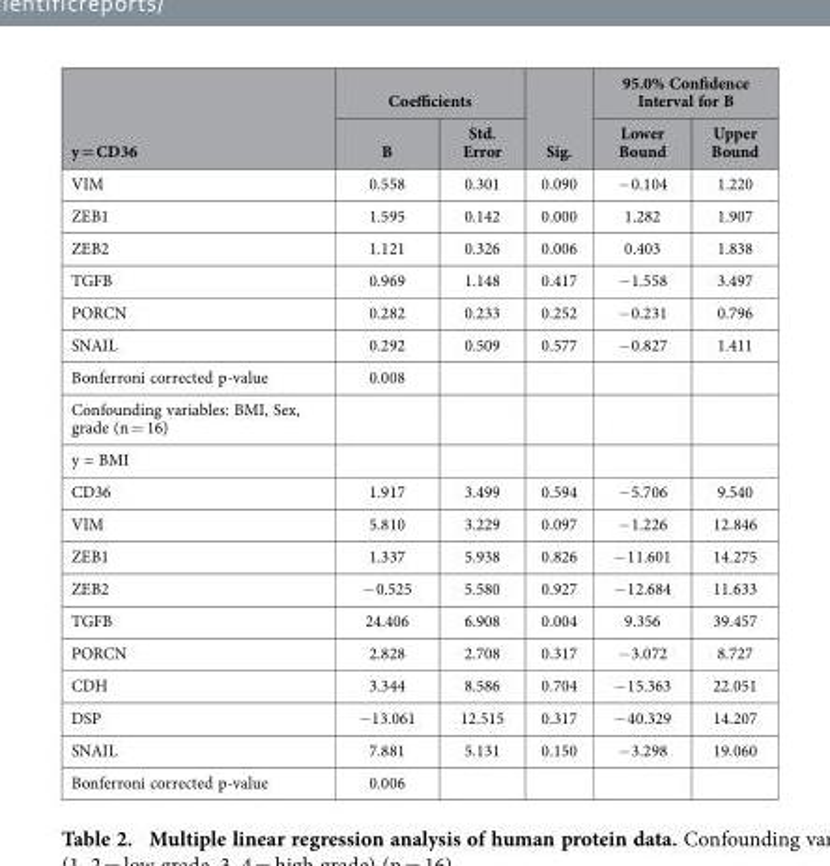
<table><thead><tr><td rowspan="2">y = CD36</td><td colspan="2">Coefficients</td><td rowspan="2">Sig.</td><td colspan="2">95.0% Confidence Interval for B</td></tr><tr><td>B</td><td>Std. Error</td><td>Lower Bound</td><td>Upper Bound</td></tr></thead><tbody><tr><td>VIM</td><td>0.558</td><td>0.301</td><td>0.090</td><td>− 0.104</td><td>1.220</td></tr><tr><td>ZEB1</td><td>1.595</td><td>0.142</td><td>0.000</td><td>1.282</td><td>1.907</td></tr><tr><td>ZEB2</td><td>1.121</td><td>0.326</td><td>0.006</td><td>0.403</td><td>1.838</td></tr><tr><td>TGFB</td><td>0.969</td><td>1.148</td><td>0.417</td><td>− 1.558</td><td>3.497</td></tr><tr><td>PORCN</td><td>0.282</td><td>0.233</td><td>0.252</td><td>− 0.231</td><td>0.796</td></tr><tr><td>SNAIL</td><td>0.292</td><td>0.509</td><td>0.577</td><td>− 0.827</td><td>1.411</td></tr><tr><td>Bonferroni corrected p-value</td><td>0.008</td><td></td><td></td><td></td><td></td></tr><tr><td colspan="6">Confounding variables: BMI, Sex, grade (n = 16)</td></tr><tr><td colspan="6">y = BMI</td></tr><tr><td>CD36</td><td>1.917</td><td>3.499</td><td>0.594</td><td>− 5.706</td><td>9.540</td></tr><tr><td>VIM</td><td>5.810</td><td>3.229</td><td>0.097</td><td>− 1.226</td><td>12.846</td></tr><tr><td>ZEB1</td><td>1.337</td><td>5.938</td><td>0.826</td><td>− 11.601</td><td>14.275</td></tr><tr><td>ZEB2</td><td>− 0.525</td><td>5.580</td><td>0.927</td><td>− 12.684</td><td>11.633</td></tr><tr><td>TGFB</td><td>24.406</td><td>6.908</td><td>0.004</td><td>9.356</td><td>39.457</td></tr><tr><td>PORCN</td><td>2.828</td><td>2.708</td><td>0.317</td><td>− 3.072</td><td>8.727</td></tr><tr><td>CDH</td><td>3.344</td><td>8.586</td><td>0.704</td><td>− 15.363</td><td>22.051</td></tr><tr><td>DSP</td><td>−13.061</td><td>12.515</td><td>0.317</td><td>− 40.329</td><td>14.207</td></tr><tr><td>SNAIL</td><td>7.881</td><td>5.131</td><td>0.150</td><td>− 3.298</td><td>19.060</td></tr><tr><td>Bonferroni corrected p-value</td><td>0.006</td><td></td><td></td><td></td><td></td></tr></tbody></table>